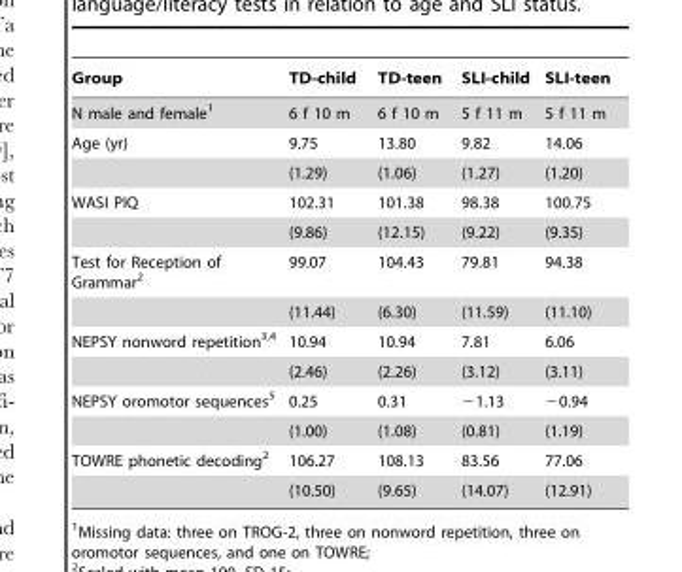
<table><thead><tr><td>Group</td><td>TD-child</td><td>TD-teen</td><td>SLI-child</td><td>SLI-teen</td></tr></thead><tbody><tr><td>N male and female<sup>1</sup></td><td>6 f 10 m</td><td>6 f 10 m</td><td>5 f 11 m</td><td>5 f 11 m</td></tr><tr><td rowspan="2">Age (yr)</td><td>9.75</td><td>13.80</td><td>9.82</td><td>14.06</td></tr><tr><td>(1.29)</td><td>(1.06)</td><td>(1.27)</td><td>(1.20)</td></tr><tr><td rowspan="2">WASI PIQ</td><td>102.31</td><td>101.38</td><td>98.38</td><td>100.75</td></tr><tr><td>(9.86)</td><td>(12.15)</td><td>(9.22)</td><td>(9.35)</td></tr><tr><td rowspan="2">Test for Reception of Grammar<sup>2</sup></td><td>99.07</td><td>104.43</td><td>79.81</td><td>94.38</td></tr><tr><td>(11.44)</td><td>(6.30)</td><td>(11.59)</td><td>(11.10)</td></tr><tr><td rowspan="2">NEPSY nonword repetition<sup>3,4</sup></td><td>10.94</td><td>10.94</td><td>7.81</td><td>6.06</td></tr><tr><td>(2.46)</td><td>(2.26)</td><td>(3.12)</td><td>(3.11)</td></tr><tr><td rowspan="2">NEPSY oromotor sequences<sup>5</sup></td><td>0.25</td><td>0.31</td><td>−1.13</td><td>−0.94</td></tr><tr><td>(1.00)</td><td>(1.08)</td><td>(0.81)</td><td>(1.19)</td></tr><tr><td rowspan="2">TOWRE phonetic decoding<sup>2</sup></td><td>106.27</td><td>108.13</td><td>83.56</td><td>77.06</td></tr><tr><td>(10.50)</td><td>(9.65)</td><td>(14.07)</td><td>(12.91)</td></tr></tbody></table>